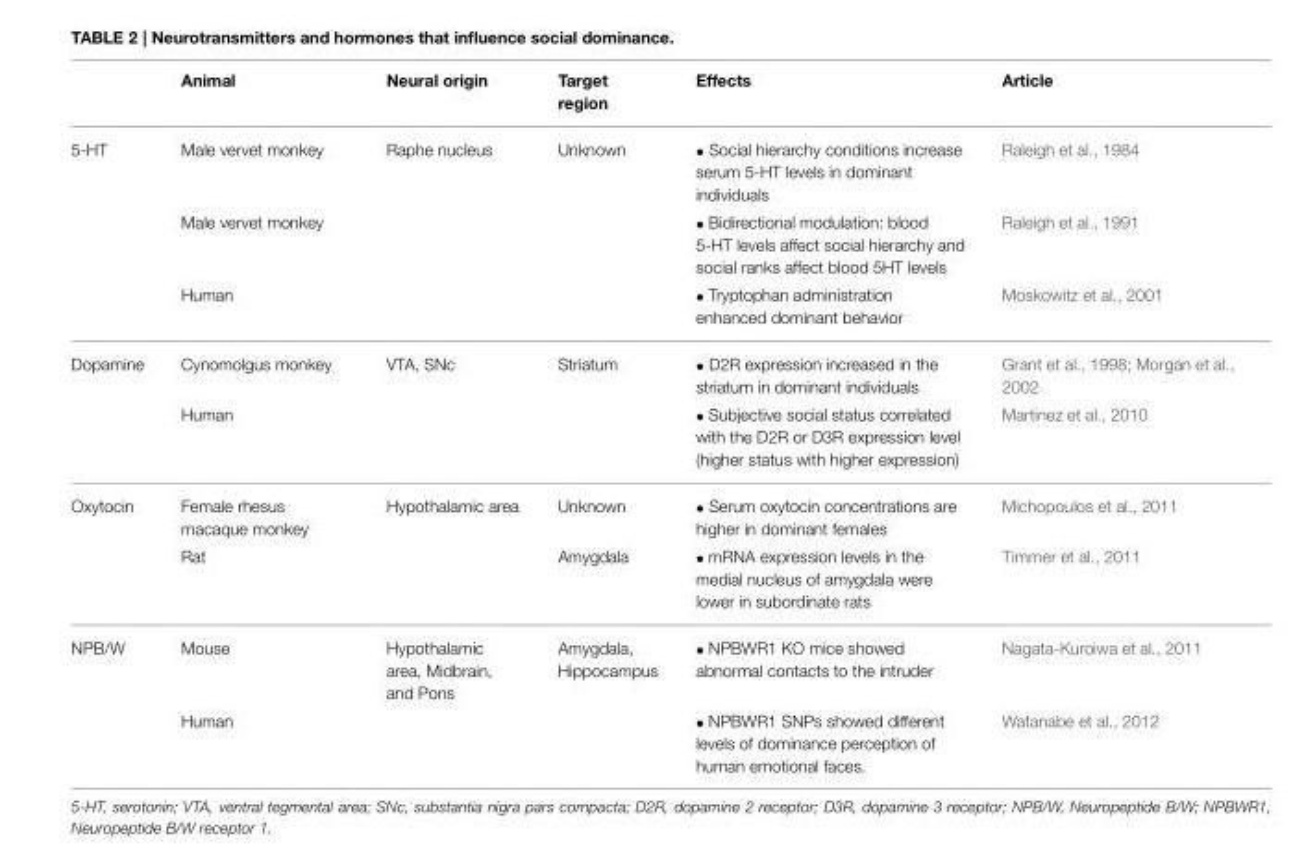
<table><thead><tr><td></td><td>Animal</td><td>Neural origin</td><td>Target region</td><td>Effects</td><td>Article</td></tr></thead><tbody><tr><td rowspan="3">5-HT</td><td>Male vervet monkey</td><td>Raphe nucleus</td><td>Unknown</td><td>• Social hierarchy conditions increase serum 5-HT levels in dominant individuals</td><td>Raleigh et al., 1984</td></tr><tr><td>Male vervet monkey</td><td></td><td></td><td>• Bidirectional modulation: blood 5-HT levels affect social hierarchy and social ranks affect blood 5HT levels</td><td>Raleigh et al., 1991</td></tr><tr><td>Human</td><td></td><td></td><td>• Tryptophan administration enhanced dominant behavior</td><td>Moskowitz et al., 2001</td></tr><tr><td rowspan="2">Dopamine</td><td>Cynomolgus monkey</td><td>VTA, SNc</td><td>Striatum</td><td>• D2R expression increased in the striatum in dominant individuals</td><td>Grant et al., 1998; Morgan et al., 2002</td></tr><tr><td>Human</td><td></td><td></td><td>• Subjective social status correlated with the D2R or D3R expression level (higher status with higher expression)</td><td>Martinez et al., 2010</td></tr><tr><td rowspan="2">Oxytocin</td><td>Female rhesus macaque monkey</td><td>Hypothalamic area</td><td>Unknown</td><td>• Serum oxytocin concentrations are higher in dominant females</td><td>Michopoulos et al., 2011</td></tr><tr><td>Rat</td><td></td><td>Amygdala</td><td>• mRNA expression levels in the medial nucleus of amygdala were lower in subordinate rats</td><td>Timmer et al., 2011</td></tr><tr><td rowspan="2">NPB/W</td><td>Mouse</td><td>Hypothalamic area, Midbrain, and Pons</td><td>Amygdala, Hippocampus</td><td>• NPBWR1 KO mice showed abnormal contacts to the intruder</td><td>Nagata-Kuroiwa et al., 2011</td></tr><tr><td>Human</td><td></td><td></td><td>• NPBWR1 SNPs showed different levels of dominance perception of human emotional faces.</td><td>Watanabe et al., 2012</td></tr></tbody></table>